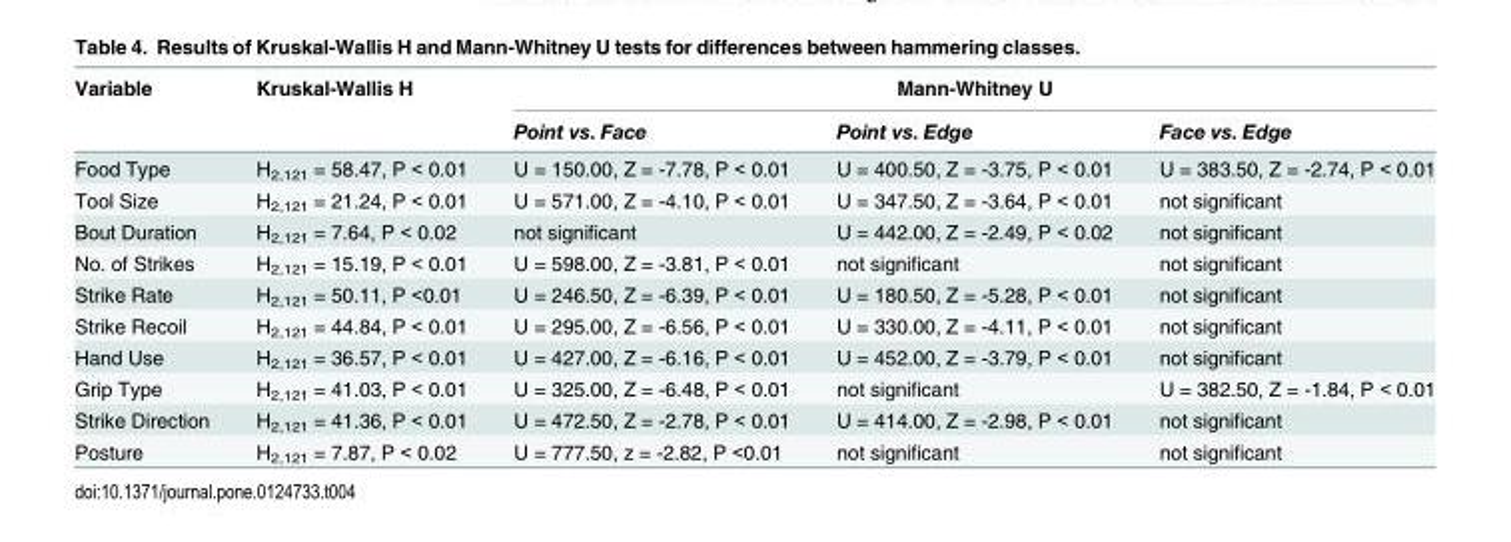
<table><thead><tr><td rowspan="2">Variable</td><td rowspan="2">Kruskal-Wallis H</td><td colspan="3">Mann-Whitney U</td></tr><tr><td>Point vs. Face</td><td>Point vs. Edge</td><td>Face vs. Edge</td></tr></thead><tbody><tr><td>Food Type</td><td>H<sub>2,121</sub> = 58.47, P &lt; 0.01</td><td>U = 150.00, Z = -7.78, P &lt; 0.01</td><td>U = 400.50, Z = -3.75, P &lt; 0.01</td><td>U = 383.50, Z = -2.74, P &lt; 0.01</td></tr><tr><td>Tool Size</td><td>H<sub>2,121</sub> = 21.24, P &lt; 0.01</td><td>U = 571.00, Z = -4.10, P &lt; 0.01</td><td>U = 347.50, Z = -3.64, P &lt; 0.01</td><td>not significant</td></tr><tr><td>Bout Duration</td><td>H<sub>2,121</sub> = 7.64, P &lt; 0.02</td><td>not significant</td><td>U = 442.00, Z = -2.49, P &lt; 0.02</td><td>not significant</td></tr><tr><td>No. of Strikes</td><td>H<sub>2,121</sub> = 15.19, P &lt; 0.01</td><td>U = 598.00, Z = -3.81, P &lt; 0.01</td><td>not significant</td><td>not significant</td></tr><tr><td>Strike Rate</td><td>H<sub>2,121</sub> = 50.11, P &lt;0.01</td><td>U = 246.50, Z = -6.39, P &lt; 0.01</td><td>U = 180.50, Z = -5.28, P &lt; 0.01</td><td>not significant</td></tr><tr><td>Strike Recoil</td><td>H<sub>2,121</sub> = 44.84, P &lt; 0.01</td><td>U = 295.00, Z = -6.56, P &lt; 0.01</td><td>U = 330.00, Z = -4.11, P &lt; 0.01</td><td>not significant</td></tr><tr><td>Hand Use</td><td>H<sub>2,121</sub> = 36.57, P &lt; 0.01</td><td>U = 427.00, Z = -6.16, P &lt; 0.01</td><td>U = 452.00, Z = -3.79, P &lt; 0.01</td><td>not significant</td></tr><tr><td>Grip Type</td><td>H<sub>2,121</sub> = 41.03, P &lt; 0.01</td><td>U = 325.00, Z = -6.48, P &lt; 0.01</td><td>not significant</td><td>U = 382.50, Z = -1.84, P &lt; 0.01</td></tr><tr><td>Strike Direction</td><td>H<sub>2,121</sub> = 41.36, P &lt; 0.01</td><td>U = 472.50, Z = -2.78, P &lt; 0.01</td><td>U = 414.00, Z = -2.98, P &lt; 0.01</td><td>not significant</td></tr><tr><td>Posture</td><td>H<sub>2,121</sub> = 7.87, P &lt; 0.02</td><td>U = 777.50, z = -2.82, P &lt;0.01</td><td>not significant</td><td>not significant</td></tr></tbody></table>